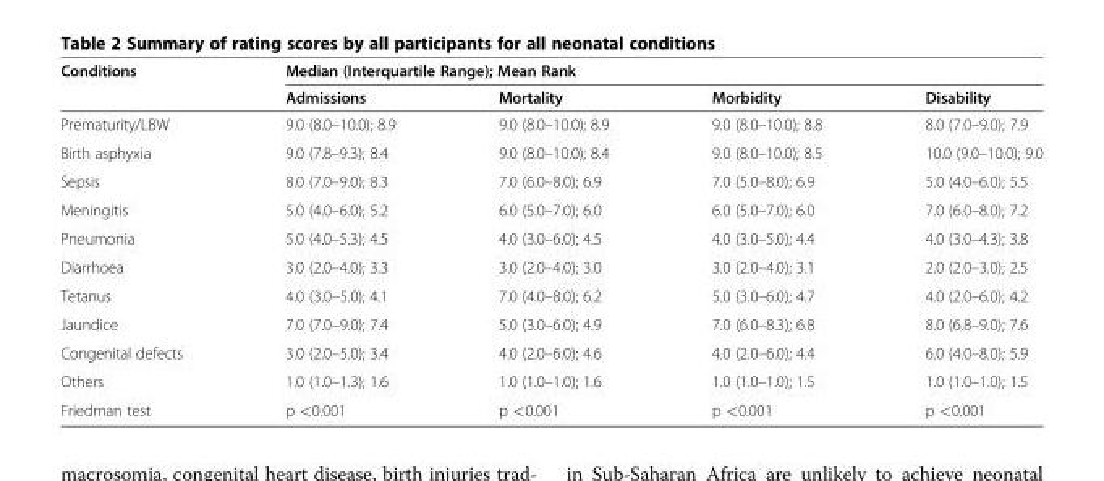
<table><thead><tr><td rowspan="2">Conditions</td><td colspan="4">Median (Interquartile Range); Mean Rank</td></tr><tr><td>Admissions</td><td>Mortality</td><td>Morbidity</td><td>Disability</td></tr></thead><tbody><tr><td>Prematurity/LBW</td><td>9.0 (8.0–10.0); 8.9</td><td>9.0 (8.0–10.0); 8.9</td><td>9.0 (8.0–10.0); 8.8</td><td>8.0 (7.0–9.0); 7.9</td></tr><tr><td>Birth asphyxia</td><td>9.0 (7.8–9.3); 8.4</td><td>9.0 (8.0–10.0); 8.4</td><td>9.0 (8.0–10.0); 8.5</td><td>10.0 (9.0–10.0); 9.0</td></tr><tr><td>Sepsis</td><td>8.0 (7.0–9.0); 8.3</td><td>7.0 (6.0–8.0); 6.9</td><td>7.0 (5.0–8.0); 6.9</td><td>5.0 (4.0–6.0); 5.5</td></tr><tr><td>Meningitis</td><td>5.0 (4.0–6.0); 5.2</td><td>6.0 (5.0–7.0); 6.0</td><td>6.0 (5.0–7.0); 6.0</td><td>7.0 (6.0–8.0); 7.2</td></tr><tr><td>Pneumonia</td><td>5.0 (4.0–5.3); 4.5</td><td>4.0 (3.0–6.0); 4.5</td><td>4.0 (3.0–5.0); 4.4</td><td>4.0 (3.0–4.3); 3.8</td></tr><tr><td>Diarrhoea</td><td>3.0 (2.0–4.0); 3.3</td><td>3.0 (2.0–4.0); 3.0</td><td>3.0 (2.0–4.0); 3.1</td><td>2.0 (2.0–3.0); 2.5</td></tr><tr><td>Tetanus</td><td>4.0 (3.0–5.0); 4.1</td><td>7.0 (4.0–8.0); 6.2</td><td>5.0 (3.0–6.0); 4.7</td><td>4.0 (2.0–6.0); 4.2</td></tr><tr><td>Jaundice</td><td>7.0 (7.0–9.0); 7.4</td><td>5.0 (3.0–6.0); 4.9</td><td>7.0 (6.0–8.3); 6.8</td><td>8.0 (6.8–9.0); 7.6</td></tr><tr><td>Congenital defects</td><td>3.0 (2.0–5.0); 3.4</td><td>4.0 (2.0–6.0); 4.6</td><td>4.0 (2.0–6.0); 4.4</td><td>6.0 (4.0–8.0); 5.9</td></tr><tr><td>Others</td><td>1.0 (1.0–1.3); 1.6</td><td>1.0 (1.0–1.0); 1.6</td><td>1.0 (1.0–1.0); 1.5</td><td>1.0 (1.0–1.0); 1.5</td></tr><tr><td>Friedman test</td><td>p &lt;0.001</td><td>p &lt;0.001</td><td>p &lt;0.001</td><td>p &lt;0.001</td></tr></tbody></table>